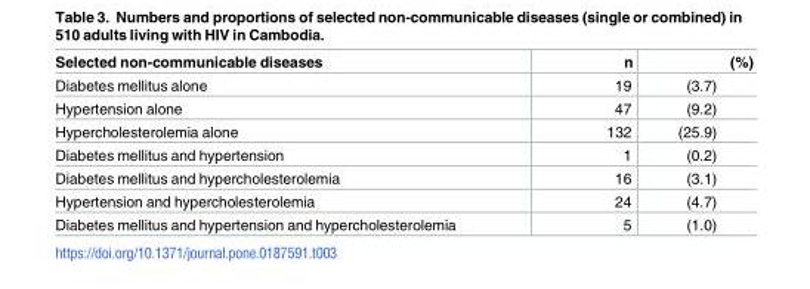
<table><thead><tr><td>Selected non-communicable diseases</td><td>n</td><td>(%)</td></tr></thead><tbody><tr><td>Diabetes mellitus alone</td><td>19</td><td>(3.7)</td></tr><tr><td>Hypertension alone</td><td>47</td><td>(9.2)</td></tr><tr><td>Hypercholesterolemia alone</td><td>132</td><td>(25.9)</td></tr><tr><td>Diabetes mellitus and hypertension</td><td>1</td><td>(0.2)</td></tr><tr><td>Diabetes mellitus and hypercholesterolemia</td><td>16</td><td>(3.1)</td></tr><tr><td>Hypertension and hypercholesterolemia</td><td>24</td><td>(4.7)</td></tr><tr><td>Diabetes mellitus and hypertension and hypercholesterolemia</td><td>5</td><td>(1.0)</td></tr></tbody></table>